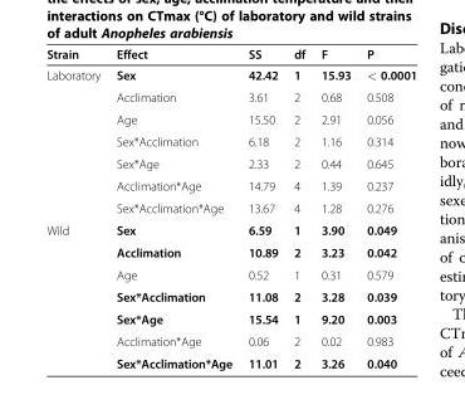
<table><thead><tr><td>Strain</td><td>Effect</td><td>SS</td><td>df</td><td>F</td><td>P</td></tr></thead><tbody><tr><td rowspan="7">Laboratory</td><td>Sex</td><td>42.42</td><td>1</td><td>15.93</td><td>&lt; 0.0001</td></tr><tr><td>Acclimation</td><td>3.61</td><td>2</td><td>0.68</td><td>0.508</td></tr><tr><td>Age</td><td>15.50</td><td>2</td><td>2.91</td><td>0.056</td></tr><tr><td>Sex*Acclimation</td><td>6.18</td><td>2</td><td>1.16</td><td>0.314</td></tr><tr><td>Sex*Age</td><td>2.33</td><td>2</td><td>0.44</td><td>0.645</td></tr><tr><td>Acclimation*Age</td><td>14.79</td><td>4</td><td>1.39</td><td>0.237</td></tr><tr><td>Sex*Acclimation*Age</td><td>13.67</td><td>4</td><td>1.28</td><td>0.276</td></tr><tr><td rowspan="7">Wild</td><td>Sex</td><td>6.59</td><td>1</td><td>3.90</td><td>0.049</td></tr><tr><td>Acclimation</td><td>10.89</td><td>2</td><td>3.23</td><td>0.042</td></tr><tr><td>Age</td><td>0.52</td><td>1</td><td>0.31</td><td>0.579</td></tr><tr><td>Sex*Acclimation</td><td>11.08</td><td>2</td><td>3.28</td><td>0.039</td></tr><tr><td>Sex*Age</td><td>15.54</td><td>1</td><td>9.20</td><td>0.003</td></tr><tr><td>Acclimation*Age</td><td>0.06</td><td>2</td><td>0.02</td><td>0.983</td></tr><tr><td>Sex*Acclimation*Age</td><td>11.01</td><td>2</td><td>3.26</td><td>0.040</td></tr></tbody></table>